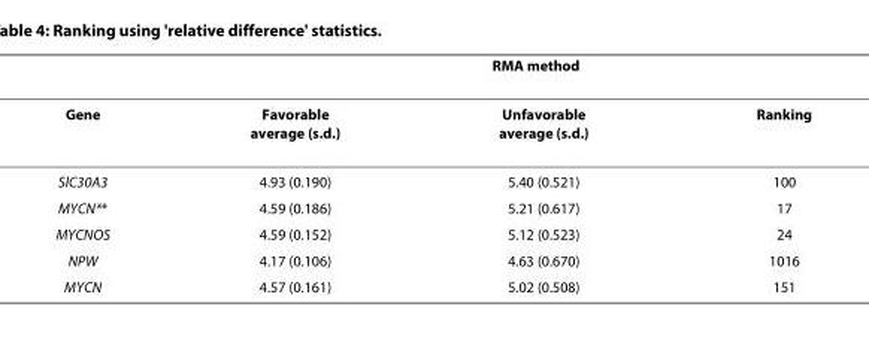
<table><thead><tr><td rowspan="2">Gene</td><td colspan="3">RMA method</td></tr><tr><td>Favorable average (s.d.)</td><td>Unfavorable average (s.d.)</td><td>Ranking</td></tr></thead><tbody><tr><td>SlC30A3</td><td>4.93 (0.190)</td><td>5.40 (0.521)</td><td>100</td></tr><tr><td>MYCN**</td><td>4.59 (0.186)</td><td>5.21 (0.617)</td><td>17</td></tr><tr><td>MYCNOS</td><td>4.59 (0.152)</td><td>5.12 (0.523)</td><td>24</td></tr><tr><td>NPW</td><td>4.17 (0.106)</td><td>4.63 (0.670)</td><td>1016</td></tr><tr><td>MYCN</td><td>4.57 (0.161)</td><td>5.02 (0.508)</td><td>151</td></tr></tbody></table>